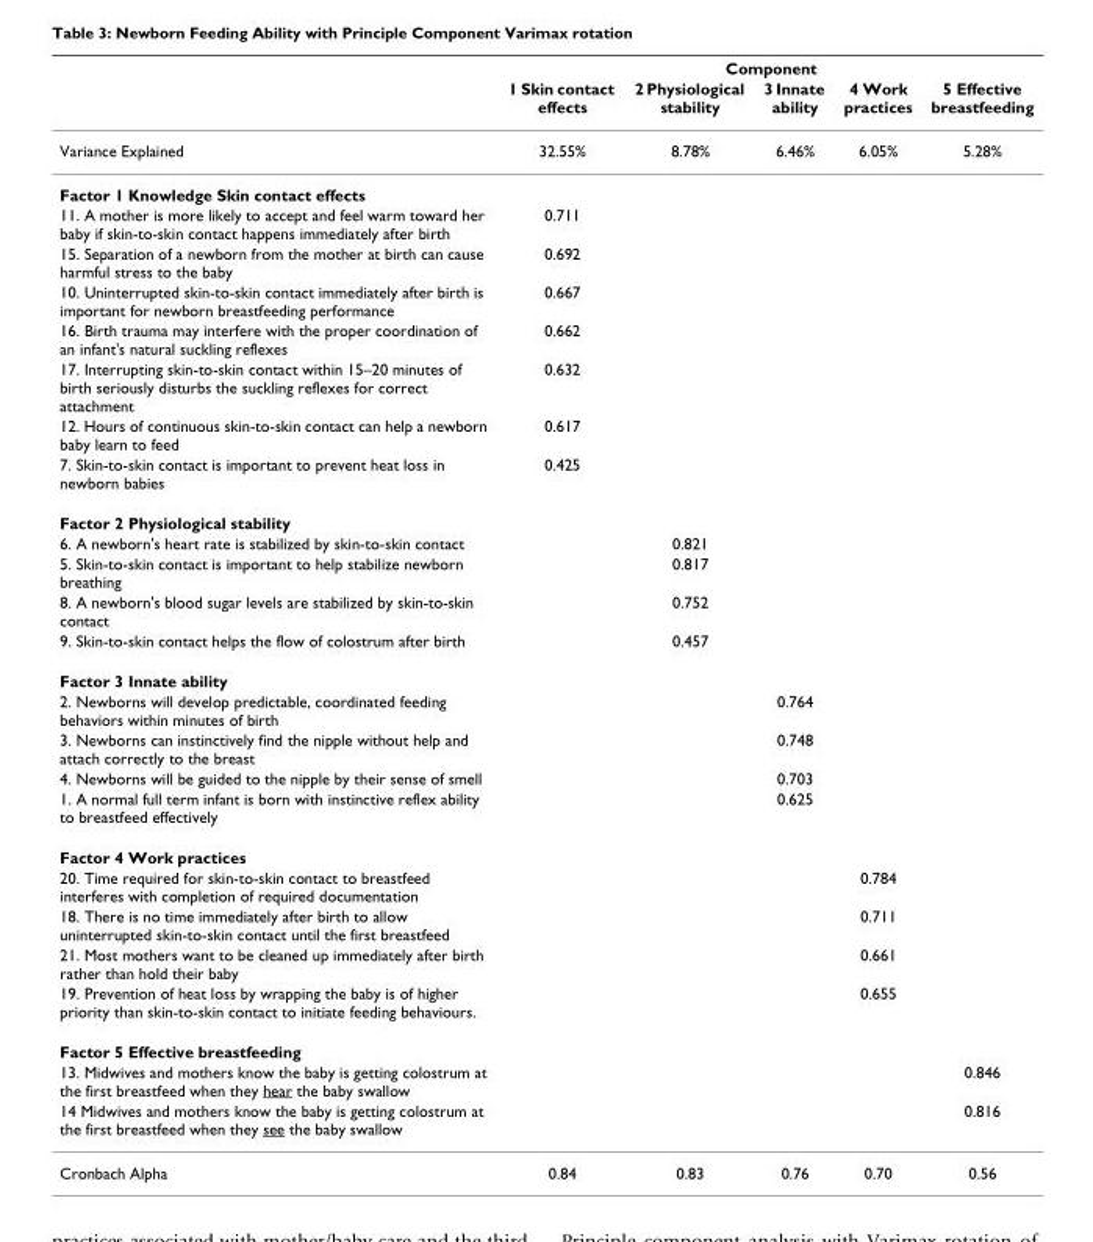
<table><thead><tr><td rowspan="2"></td><td colspan="5">Component</td></tr><tr><td>1 Skin contact effects</td><td>2 Physiological stability</td><td>3 Innate ability</td><td>4 Work practices</td><td>5 Effective breastfeeding</td></tr></thead><tbody><tr><td>Variance Explained</td><td>32.55%</td><td>8.78%</td><td>6.46%</td><td>6.05%</td><td>5.28%</td></tr><tr><td colspan="6">Factor 1 Knowledge Skin contact effects</td></tr><tr><td>11. A mother is more likely to accept and feel warm toward her baby if skin-to-skin contact happens immediately after birth</td><td>0.711</td><td></td><td></td><td></td><td></td></tr><tr><td>15. Separation of a newborn from the mother at birth can cause harmful stress to the baby</td><td>0.692</td><td></td><td></td><td></td><td></td></tr><tr><td>10. Uninterrupted skin-to-skin contact immediately after birth is important for newborn breastfeeding performance</td><td>0.667</td><td></td><td></td><td></td><td></td></tr><tr><td>16. Birth trauma may interfere with the proper coordination of an infant&#x27;s natural suckling reflexes</td><td>0.662</td><td></td><td></td><td></td><td></td></tr><tr><td>17. Interrupting skin-to-skin contact within 15–20 minutes of birth seriously disturbs the suckling reflexes for correct attachment</td><td>0.632</td><td></td><td></td><td></td><td></td></tr><tr><td>12. Hours of continuous skin-to-skin contact can help a newborn baby learn to feed</td><td>0.617</td><td></td><td></td><td></td><td></td></tr><tr><td>7. Skin-to-skin contact is important to prevent heat loss in newborn babies</td><td>0.425</td><td></td><td></td><td></td><td></td></tr><tr><td colspan="6">Factor 2 Physiological stability</td></tr><tr><td>6. A newborn&#x27;s heart rate is stabilized by skin-to-skin contact</td><td></td><td>0.821</td><td></td><td></td><td></td></tr><tr><td>5. Skin-to-skin contact is important to help stabilize newborn breathing</td><td></td><td>0.817</td><td></td><td></td><td></td></tr><tr><td>8. A newborn&#x27;s blood sugar levels are stabilized by skin-to-skin contact</td><td></td><td>0.752</td><td></td><td></td><td></td></tr><tr><td>9. Skin-to-skin contact helps the flow of colostrum after birth</td><td></td><td>0.457</td><td></td><td></td><td></td></tr><tr><td colspan="6">Factor 3 Innate ability</td></tr><tr><td>2. Newborns will develop predictable, coordinated feeding behaviors within minutes of birth</td><td></td><td></td><td>0.764</td><td></td><td></td></tr><tr><td>3. Newborns can instinctively find the nipple without help and attach correctly to the breast</td><td></td><td></td><td>0.748</td><td></td><td></td></tr><tr><td>4. Newborns will be guided to the nipple by their sense of smell</td><td></td><td></td><td>0.703</td><td></td><td></td></tr><tr><td>1. A normal full term infant is born with instinctive reflex ability to breastfeed effectively</td><td></td><td></td><td>0.625</td><td></td><td></td></tr><tr><td colspan="6">Factor 4 Work practices</td></tr><tr><td>20. Time required for skin-to-skin contact to breastfeed interferes with completion of required documentation</td><td></td><td></td><td></td><td>0.784</td><td></td></tr><tr><td>18. There is no time immediately after birth to allow uninterrupted skin-to-skin contact until the first breastfeed</td><td></td><td></td><td></td><td>0.711</td><td></td></tr><tr><td>21. Most mothers want to be cleaned up immediately after birth rather than hold their baby</td><td></td><td></td><td></td><td>0.661</td><td></td></tr><tr><td>19. Prevention of heat loss by wrapping the baby is of higher priority than skin-to-skin contact to initiate feeding behaviours.</td><td></td><td></td><td></td><td>0.655</td><td></td></tr><tr><td colspan="6">Factor 5 Effective breastfeeding</td></tr><tr><td>13. Midwives and mothers know the baby is getting colostrum at the first breastfeed when they hear the baby swallow</td><td></td><td></td><td></td><td></td><td>0.846</td></tr><tr><td>14 Midwives and mothers know the baby is getting colostrum at the first breastfeed when they see the baby swallow</td><td></td><td></td><td></td><td></td><td>0.816</td></tr><tr><td>Cronbach Alpha</td><td>0.84</td><td>0.83</td><td>0.76</td><td>0.70</td><td>0.56</td></tr></tbody></table>